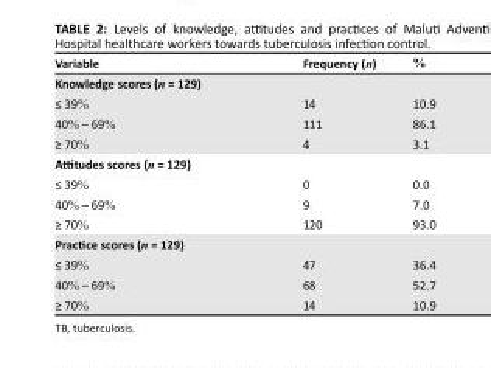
<table><thead><tr><td>Variable</td><td>Frequency (n)</td><td>%</td></tr></thead><tbody><tr><td colspan="3">Knowledge scores (n = 129)</td></tr><tr><td>≤ 39%</td><td>14</td><td>10.9</td></tr><tr><td>40% – 69%</td><td>111</td><td>86.1</td></tr><tr><td>≥ 70%</td><td>4</td><td>3.1</td></tr><tr><td colspan="3">Attitudes scores (n = 129)</td></tr><tr><td>≤ 39%</td><td>0</td><td>0.0</td></tr><tr><td>40% – 69%</td><td>9</td><td>7.0</td></tr><tr><td>≥ 70%</td><td>120</td><td>93.0</td></tr><tr><td colspan="3">Practice scores (n = 129)</td></tr><tr><td>≤ 39%</td><td>47</td><td>36.4</td></tr><tr><td>40% – 69%</td><td>68</td><td>52.7</td></tr><tr><td>≥ 70%</td><td>14</td><td>10.9</td></tr></tbody></table>